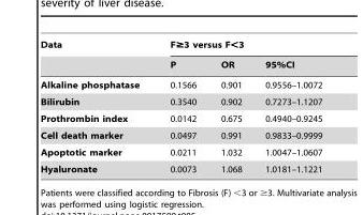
<table><thead><tr><td rowspan="2">Data</td><td colspan="3">F≥3 versus F&lt;3</td></tr><tr><td>P</td><td>OR</td><td>95%CI</td></tr></thead><tbody><tr><td>Alkaline phosphatase</td><td>0.1566</td><td>0.901</td><td>0.9556–1.0072</td></tr><tr><td>Bilirubin</td><td>0.3540</td><td>0.902</td><td>0.7273–1.1207</td></tr><tr><td>Prothrombin index</td><td>0.0142</td><td>0.675</td><td>0.4940–0.9245</td></tr><tr><td>Cell death marker</td><td>0.0497</td><td>0.991</td><td>0.9833–0.9999</td></tr><tr><td>Apoptotic marker</td><td>0.0211</td><td>1.032</td><td>1.0047–1.0607</td></tr><tr><td>Hyaluronate</td><td>0.0073</td><td>1.068</td><td>1.0181–1.1221</td></tr></tbody></table>